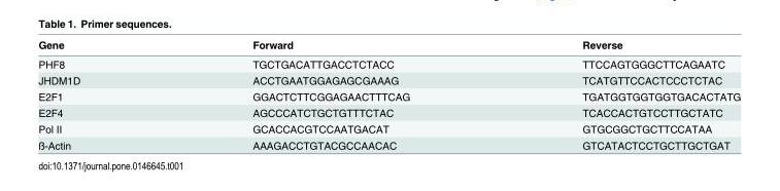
<table><thead><tr><td>Gene</td><td>Forward</td><td>Reverse</td></tr></thead><tbody><tr><td>PHF8</td><td>TGCTGACATTGACCTCTACC</td><td>TTCCAGTGGGCTTCAGAATC</td></tr><tr><td>JHDM1D</td><td>ACCTGAATGGAGAGCGAAAG</td><td>TCATGTTCCACTCCCTCTAC</td></tr><tr><td>E2F1</td><td>GGACTCTTCGGAGAACTTTCAG</td><td>TGATGGTGGTGGTGACACTATG</td></tr><tr><td>E2F4</td><td>AGCCCATCTGCTGTTTCTAC</td><td>TCACCACTGTCCTTGCTATC</td></tr><tr><td>Pol II</td><td>GCACCACGTCCAATGACAT</td><td>GTGCGGCTGCTTCCATAA</td></tr><tr><td>ß-Actin</td><td>AAAGACCTGTACGCCAACAC</td><td>GTCATACTCCTGCTTGCTGAT</td></tr></tbody></table>